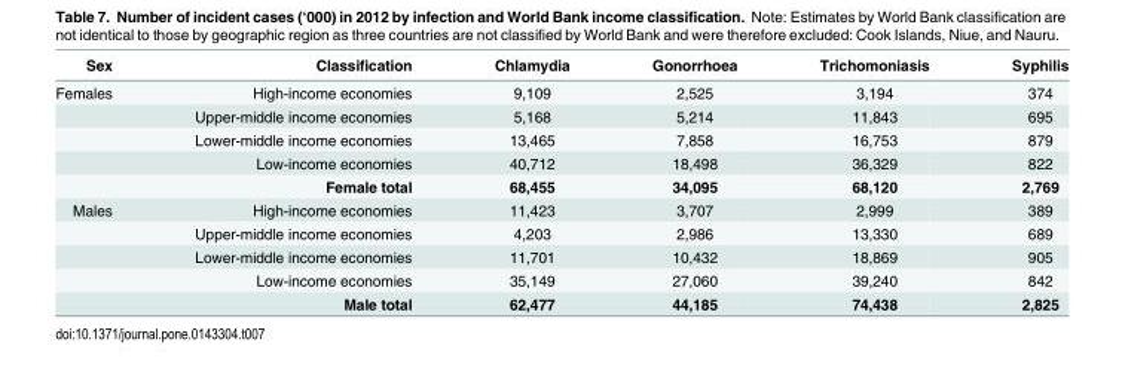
<table><thead><tr><td>Sex</td><td>Classification</td><td>Chlamydia</td><td>Gonorrhoea</td><td>Trichomoniasis</td><td>Syphilis</td></tr></thead><tbody><tr><td rowspan="5">Females</td><td>High-income economies</td><td>9,109</td><td>2,525</td><td>3,194</td><td>374</td></tr><tr><td>Upper-middle income economies</td><td>5,168</td><td>5,214</td><td>11,843</td><td>695</td></tr><tr><td>Lower-middle income economies</td><td>13,465</td><td>7,858</td><td>16,753</td><td>879</td></tr><tr><td>Low-income economies</td><td>40,712</td><td>18,498</td><td>36,329</td><td>822</td></tr><tr><td>Female total</td><td>68,455</td><td>34,095</td><td>68,120</td><td>2,769</td></tr><tr><td rowspan="5">Males</td><td>High-income economies</td><td>11,423</td><td>3,707</td><td>2,999</td><td>389</td></tr><tr><td>Upper-middle income economies</td><td>4,203</td><td>2,986</td><td>13,330</td><td>689</td></tr><tr><td>Lower-middle income economies</td><td>11,701</td><td>10,432</td><td>18,869</td><td>905</td></tr><tr><td>Low-income economies</td><td>35,149</td><td>27,060</td><td>39,240</td><td>842</td></tr><tr><td>Male total</td><td>62,477</td><td>44,185</td><td>74,438</td><td>2,825</td></tr></tbody></table>